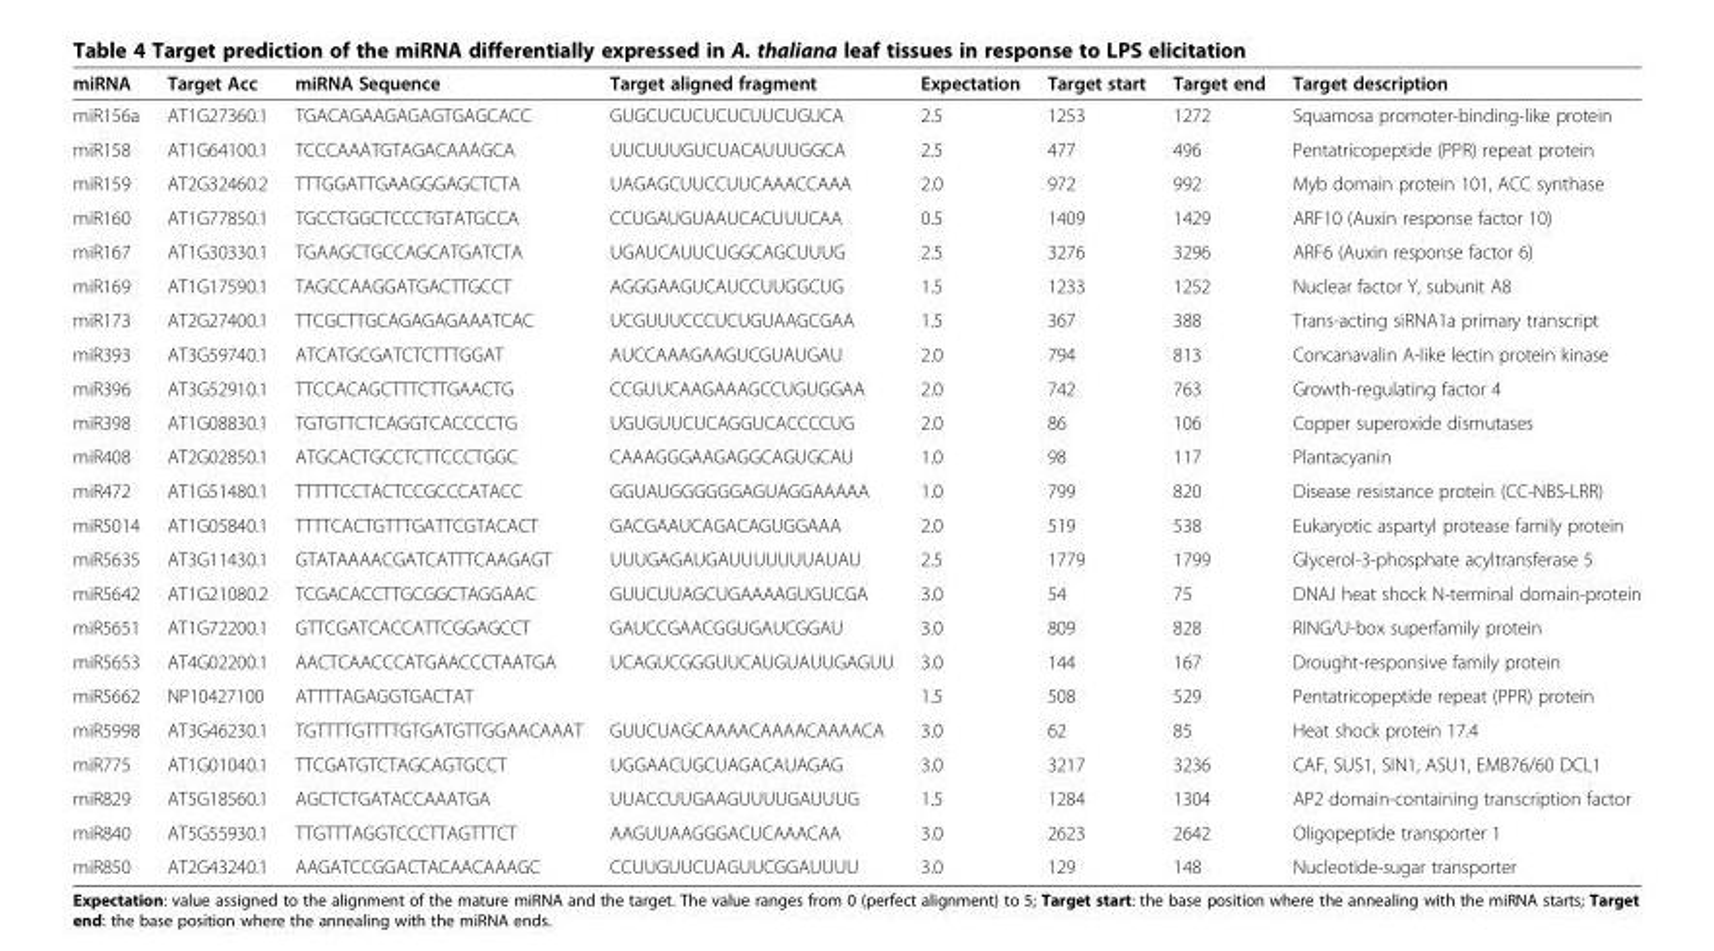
<table><thead><tr><td>miRNA</td><td>Target Acc</td><td>miRNA Sequence</td><td>Target aligned fragment</td><td>Expectation</td><td>Target start</td><td>Target end</td><td>Target description</td></tr></thead><tbody><tr><td>miR156a</td><td>AT1G27360.1</td><td>TGACAGAAGAGAGTGAGCACC</td><td>GUGCUCUCUCUCUUCUGUCA</td><td>2.5</td><td>1253</td><td>1272</td><td>Squamosa promoter-binding-like protein</td></tr><tr><td>miR158</td><td>AT1G64100.1</td><td>TCCCAAATGTAGACAAAGCA</td><td>UUCUUUGUCUACAUUUGGCA</td><td>2.5</td><td>477</td><td>496</td><td>Pentatricopeptide (PPR) repeat protein</td></tr><tr><td>miR159</td><td>AT2G32460.2</td><td>TTTGGATTGAAGGGAGCTCTA</td><td>UAGAGCUUCCUUCAAACCAAA</td><td>2.0</td><td>972</td><td>992</td><td>Myb domain protein 101, ACC synthase</td></tr><tr><td>miR160</td><td>AT1G77850.1</td><td>TGCCTGGCTCCCTGTATGCCA</td><td>CCUGAUGUAAUCACUUUCAA</td><td>0.5</td><td>1409</td><td>1429</td><td>ARF10 (Auxin response factor 10)</td></tr><tr><td>miR167</td><td>AT1G30330.1</td><td>TGAAGCTGCCAGCATGATCTA</td><td>UGAUCAUUCUGGCAGCUUUG</td><td>2.5</td><td>3276</td><td>3296</td><td>ARF6 (Auxin response factor 6)</td></tr><tr><td>miR169</td><td>AT1G17590.1</td><td>TAGCCAAGGATGACTTGCCT</td><td>AGGGAAGUCAUCCUUGGCUG</td><td>1.5</td><td>1233</td><td>1252</td><td>Nuclear factor Y, subunit A8</td></tr><tr><td>miR173</td><td>AT2G27400.1</td><td>TTCGCTTGCAGAGAGAAATCAC</td><td>UCGUUUCCCUCUGUAAGCGAA</td><td>1.5</td><td>367</td><td>388</td><td>Trans-acting siRNA1a primary transcript</td></tr><tr><td>miR393</td><td>AT3G59740.1</td><td>ATCATGCGATCTCTTTGGAT</td><td>AUCCAAAGAAGUCGUAUGAU</td><td>2.0</td><td>794</td><td>813</td><td>Concanavalin A-like lectin protein kinase</td></tr><tr><td>miR396</td><td>AT3G52910.1</td><td>TTCCACAGCTTTCTTGAACTG</td><td>CCGUUCAAGAAAGCCUGUGGAA</td><td>2.0</td><td>742</td><td>763</td><td>Growth-regulating factor 4</td></tr><tr><td>miR398</td><td>AT1G08830.1</td><td>TGTGTTCTCAGGTCACCCCTG</td><td>UGUGUUCUCAGGUCACCCCUG</td><td>2.0</td><td>86</td><td>106</td><td>Copper superoxide dismutases</td></tr><tr><td>miR408</td><td>AT2G02850.1</td><td>ATGCACTGCCTCTTCCCTGGC</td><td>CAAAGGGAAGAGGCAGUGCAU</td><td>1.0</td><td>98</td><td>117</td><td>Plantacyanin</td></tr><tr><td>miR472</td><td>AT1G51480.1</td><td>TTTTTCCTACTCCGCCCATACC</td><td>GGUAUGGGGGGAGUAGGAAAAA</td><td>1.0</td><td>799</td><td>820</td><td>Disease resistance protein (CC-NBS-LRR)</td></tr><tr><td>miR5014</td><td>AT1G05840.1</td><td>TTTTCACTGTTTGATTCGTACACT</td><td>GACGAAUCAGACAGUGGAAA</td><td>2.0</td><td>519</td><td>538</td><td>Eukaryotic aspartyl protease family protein</td></tr><tr><td>miR5635</td><td>AT3G11430.1</td><td>GTATAAAACGATCATTTCAAGAGT</td><td>UUUGAGAUGAUUUUUUUAUAU</td><td>2.5</td><td>1779</td><td>1799</td><td>Glycerol-3-phosphate acyltransferase 5</td></tr><tr><td>miR5642</td><td>AT1G21080.2</td><td>TCGACACCTTGCGGCTAGGAAC</td><td>GUUCUUAGCUGAAAAGUGUCGA</td><td>3.0</td><td>54</td><td>75</td><td>DNAJ heat shock N-terminal domain-protein</td></tr><tr><td>miR5651</td><td>AT1G72200.1</td><td>GTTCGATCACCATTCGGAGCCT</td><td>GAUCCGAACGGUGAUCGGAU</td><td>3.0</td><td>809</td><td>828</td><td>RING/U-box superfamily protein</td></tr><tr><td>miR5653</td><td>AT4G02200.1</td><td>AACTCAACCCATGAACCCTAATGA</td><td>UCAGUCGGGUUCAUGUAUUGAGUU</td><td>3.0</td><td>144</td><td>167</td><td>Drought-responsive family protein</td></tr><tr><td>miR5662</td><td>NP10427100</td><td>ATTTTAGAGGTGACTAT</td><td></td><td>1.5</td><td>508</td><td>529</td><td>Pentatricopeptide repeat (PPR) protein</td></tr><tr><td>miR5998</td><td>AT3G46230.1</td><td>TGTTTTGTTTTGTGATGTTGGAACAAAT</td><td>GUUCUAGCAAAACAAAACAAAACA</td><td>3.0</td><td>62</td><td>85</td><td>Heat shock protein 17.4</td></tr><tr><td>miR775</td><td>AT1G01040.1</td><td>TTCGATGTCTAGCAGTGCCT</td><td>UGGAACUGCUAGACAUAGAG</td><td>3.0</td><td>3217</td><td>3236</td><td>CAF, SUS1, SIN1, ASU1, EMB76/60 DCL1</td></tr><tr><td>miR829</td><td>AT5G18560.1</td><td>AGCTCTGATACCAAATGA</td><td>UUACCUUGAAGUUUUGAUUUG</td><td>1.5</td><td>1284</td><td>1304</td><td>AP2 domain-containing transcription factor</td></tr><tr><td>miR840</td><td>AT5G55930.1</td><td>TTGTTTAGGTCCCTTAGTTTCT</td><td>AAGUUAAGGGACUCAAACAA</td><td>3.0</td><td>2623</td><td>2642</td><td>Oligopeptide transporter 1</td></tr><tr><td>miR850</td><td>AT2G43240.1</td><td>AAGATCCGGACTACAACAAAGC</td><td>CCUUGUUCUAGUUCGGAUUUU</td><td>3.0</td><td>129</td><td>148</td><td>Nucleotide-sugar transporter</td></tr></tbody></table>